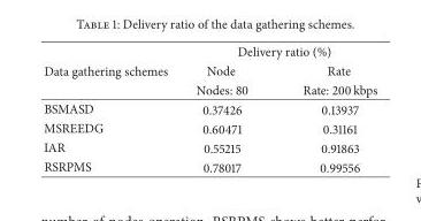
<table><thead><tr><td rowspan="3">Data gathering schemes</td><td colspan="2">Delivery ratio (%)</td></tr><tr><td rowspan="2">Node Nodes: 80</td><td rowspan="2">Rate Rate: 200 kbps</td></tr><tr></tr></thead><tbody><tr><td>BSMASD</td><td>0.37426</td><td>0.13937</td></tr><tr><td>MSREEDG</td><td>0.60471</td><td>0.31161</td></tr><tr><td>IAR</td><td>0.55215</td><td>0.91863</td></tr><tr><td>RSRPMS</td><td>0.78017</td><td>0.99556</td></tr></tbody></table>